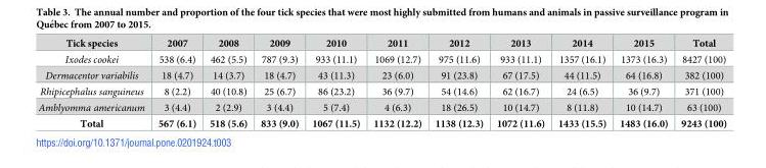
<table><thead><tr><td>Tick species</td><td>2007</td><td>2008</td><td>2009</td><td>2010</td><td>2011</td><td>2012</td><td>2013</td><td>2014</td><td>2015</td><td>Total</td></tr></thead><tbody><tr><td>Ixodes cookei</td><td>538 (6.4)</td><td>462 (5.5)</td><td>787 (9.3)</td><td>933 (11.1)</td><td>1069 (12.7)</td><td>975 (11.6)</td><td>933 (11.1)</td><td>1357 (16.1)</td><td>1373 (16.3)</td><td>8427 (100)</td></tr><tr><td>Dermacentor variabilis</td><td>18 (4.7)</td><td>14 (3.7)</td><td>18 (4.7)</td><td>43 (11.3)</td><td>23 (6.0)</td><td>91 (23.8)</td><td>67 (17.5)</td><td>44 (11.5)</td><td>64 (16.8)</td><td>382 (100)</td></tr><tr><td>Rhipicephalus sanguineus</td><td>8 (2.2)</td><td>40 (10.8)</td><td>25 (6.7)</td><td>86 (23.2)</td><td>36 (9.7)</td><td>54 (14.6)</td><td>62 (16.7)</td><td>24 (6.5)</td><td>36 (9.7)</td><td>371 (100)</td></tr><tr><td>Amblyomma americanum</td><td>3 (4.4)</td><td>2 (2.9)</td><td>3 (4.4)</td><td>5 (7.4)</td><td>4 (6.3)</td><td>18 (26.5)</td><td>10 (14.7)</td><td>8 (11.8)</td><td>10 (14.7)</td><td>63 (100)</td></tr><tr><td>Total</td><td>567 (6.1)</td><td>518 (5.6)</td><td>833 (9.0)</td><td>1067 (11.5)</td><td>1132 (12.2)</td><td>1138 (12.3)</td><td>1072 (11.6)</td><td>1433 (15.5)</td><td>1483 (16.0)</td><td>9243 (100)</td></tr></tbody></table>